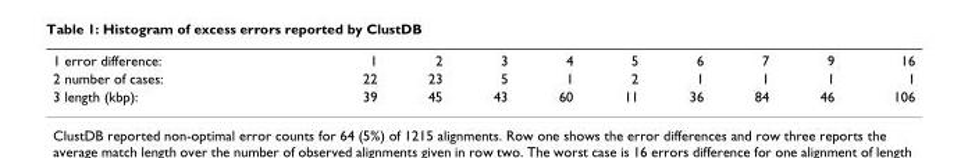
<table><tbody><tr><td>1 error difference:</td><td>1</td><td>2</td><td>3</td><td>4</td><td>5</td><td>6</td><td>7</td><td>9</td><td>16</td></tr><tr><td>2 number of cases:</td><td>22</td><td>23</td><td>5</td><td>1</td><td>2</td><td>1</td><td>1</td><td>1</td><td>1</td></tr><tr><td>3 length (kbp):</td><td>39</td><td>45</td><td>43</td><td>60</td><td>11</td><td>36</td><td>84</td><td>46</td><td>106</td></tr></tbody></table>